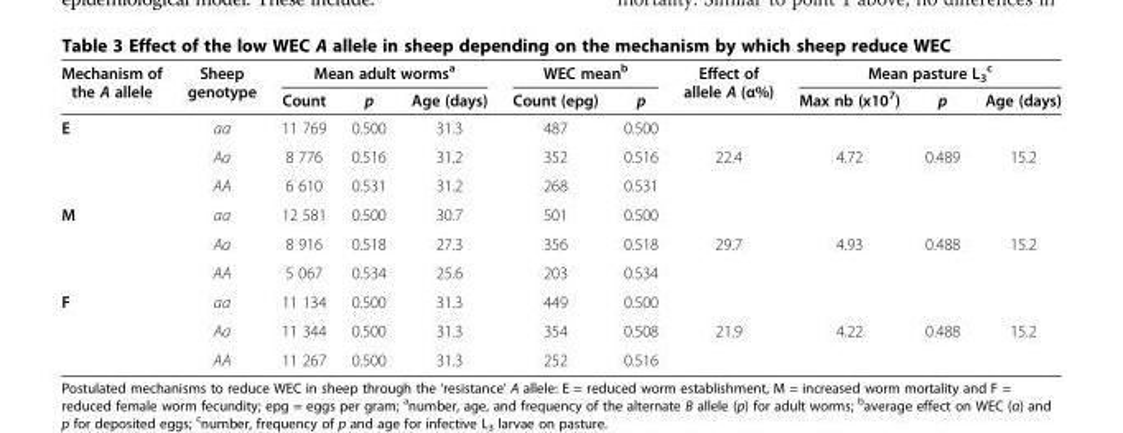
<table><thead><tr><td rowspan="2">Mechanism of the A allele</td><td rowspan="2">Sheep genotype</td><td colspan="3">Mean adult worms<sup>a</sup></td><td colspan="2">WEC mean<sup>b</sup></td><td rowspan="2">Effect of allele A (α%)</td><td colspan="3">Mean pasture L<sub>3</sub> <sup>c</sup></td></tr><tr><td>Count</td><td>p</td><td>Age (days)</td><td>Count (epg)</td><td>p</td><td>Max nb (x10<sup>7</sup>)</td><td>p</td><td>Age (days)</td></tr></thead><tbody><tr><td rowspan="3">E</td><td>aa</td><td>11 769</td><td>0.500</td><td>31.3</td><td>487</td><td>0.500</td><td></td><td></td><td></td><td></td></tr><tr><td>Aa</td><td>8 776</td><td>0.516</td><td>31.2</td><td>352</td><td>0.516</td><td>22.4</td><td>4.72</td><td>0.489</td><td>15.2</td></tr><tr><td>AA</td><td>6 610</td><td>0.531</td><td>31.2</td><td>268</td><td>0.531</td><td></td><td></td><td></td><td></td></tr><tr><td rowspan="3">M</td><td>aa</td><td>12 581</td><td>0.500</td><td>30.7</td><td>501</td><td>0.500</td><td></td><td></td><td></td><td></td></tr><tr><td>Aa</td><td>8 916</td><td>0.518</td><td>27.3</td><td>356</td><td>0.518</td><td>29.7</td><td>4.93</td><td>0.488</td><td>15.2</td></tr><tr><td>AA</td><td>5 067</td><td>0.534</td><td>25.6</td><td>203</td><td>0.534</td><td></td><td></td><td></td><td></td></tr><tr><td rowspan="3">F</td><td>aa</td><td>11 134</td><td>0.500</td><td>31.3</td><td>449</td><td>0.500</td><td></td><td></td><td></td><td></td></tr><tr><td>Aa</td><td>11 344</td><td>0.500</td><td>31.3</td><td>354</td><td>0.508</td><td>21.9</td><td>4.22</td><td>0.488</td><td>15.2</td></tr><tr><td>AA</td><td>11 267</td><td>0.500</td><td>31.3</td><td>252</td><td>0.516</td><td></td><td></td><td></td><td></td></tr></tbody></table>